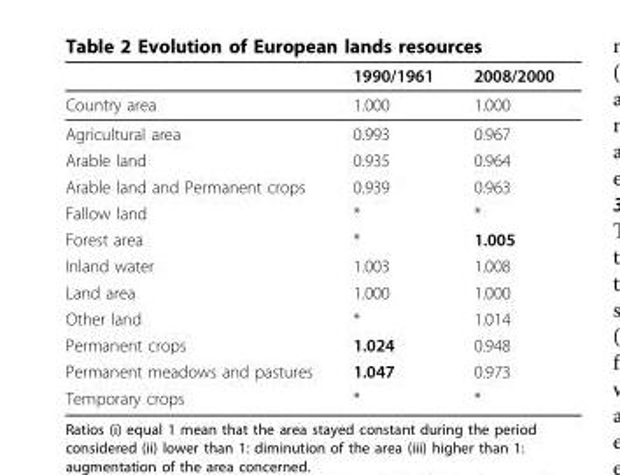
<table><thead><tr><td></td><td>1990/1961</td><td>2008/2000</td></tr></thead><tbody><tr><td>Country area</td><td>1.000</td><td>1.000</td></tr><tr><td>Agricultural area</td><td>0.993</td><td>0.967</td></tr><tr><td>Arable land</td><td>0.935</td><td>0.964</td></tr><tr><td>Arable land and Permanent crops</td><td>0.939</td><td>0.963</td></tr><tr><td>Fallow land</td><td>*</td><td>*</td></tr><tr><td>Forest area</td><td>*</td><td>1.005</td></tr><tr><td>Inland water</td><td>1.003</td><td>1.008</td></tr><tr><td>Land area</td><td>1.000</td><td>1.000</td></tr><tr><td>Other land</td><td>*</td><td>1.014</td></tr><tr><td>Permanent crops</td><td>1.024</td><td>0.948</td></tr><tr><td>Permanent meadows and pastures</td><td>1.047</td><td>0.973</td></tr><tr><td>Temporary crops</td><td>*</td><td>*</td></tr></tbody></table>